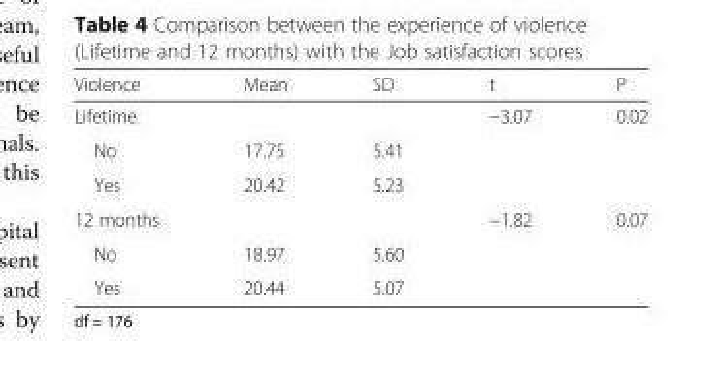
<table><thead><tr><td>Violence</td><td>Mean</td><td>SD</td><td>t</td><td>P</td></tr></thead><tbody><tr><td>Lifetime</td><td></td><td></td><td>−3.07</td><td>0.02</td></tr><tr><td>No</td><td>17.75</td><td>5.41</td><td></td><td rowspan="2"></td></tr><tr><td>Yes</td><td>20.42</td><td>5.23</td><td></td></tr><tr><td>12 months</td><td></td><td></td><td>−1.82</td><td>0.07</td></tr><tr><td>No</td><td>18.97</td><td>5.60</td><td></td><td rowspan="2"></td></tr><tr><td>Yes</td><td>20.44</td><td>5.07</td><td></td></tr></tbody></table>